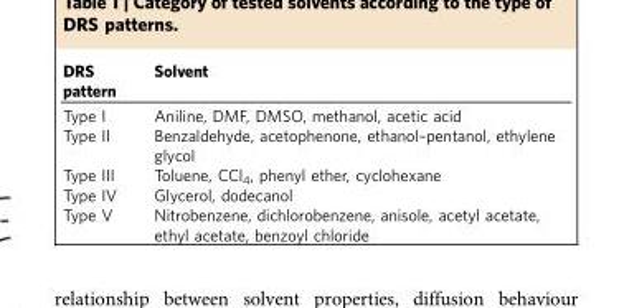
<table><thead><tr><td>DRS pattern</td><td>Solvent</td></tr></thead><tbody><tr><td>Type I</td><td>Aniline, DMF, DMSO, methanol, acetic acid</td></tr><tr><td>Type II</td><td>Benzaldehyde, acetophenone, ethanol–pentanol, ethylene glycol</td></tr><tr><td>Type III</td><td>Toluene, CCl<sub>4</sub>, phenyl ether, cyclohexane</td></tr><tr><td>Type IV</td><td>Glycerol, dodecanol</td></tr><tr><td>Type V</td><td>Nitrobenzene, dichlorobenzene, anisole, acetyl acetate, ethyl acetate, benzoyl chloride</td></tr></tbody></table>